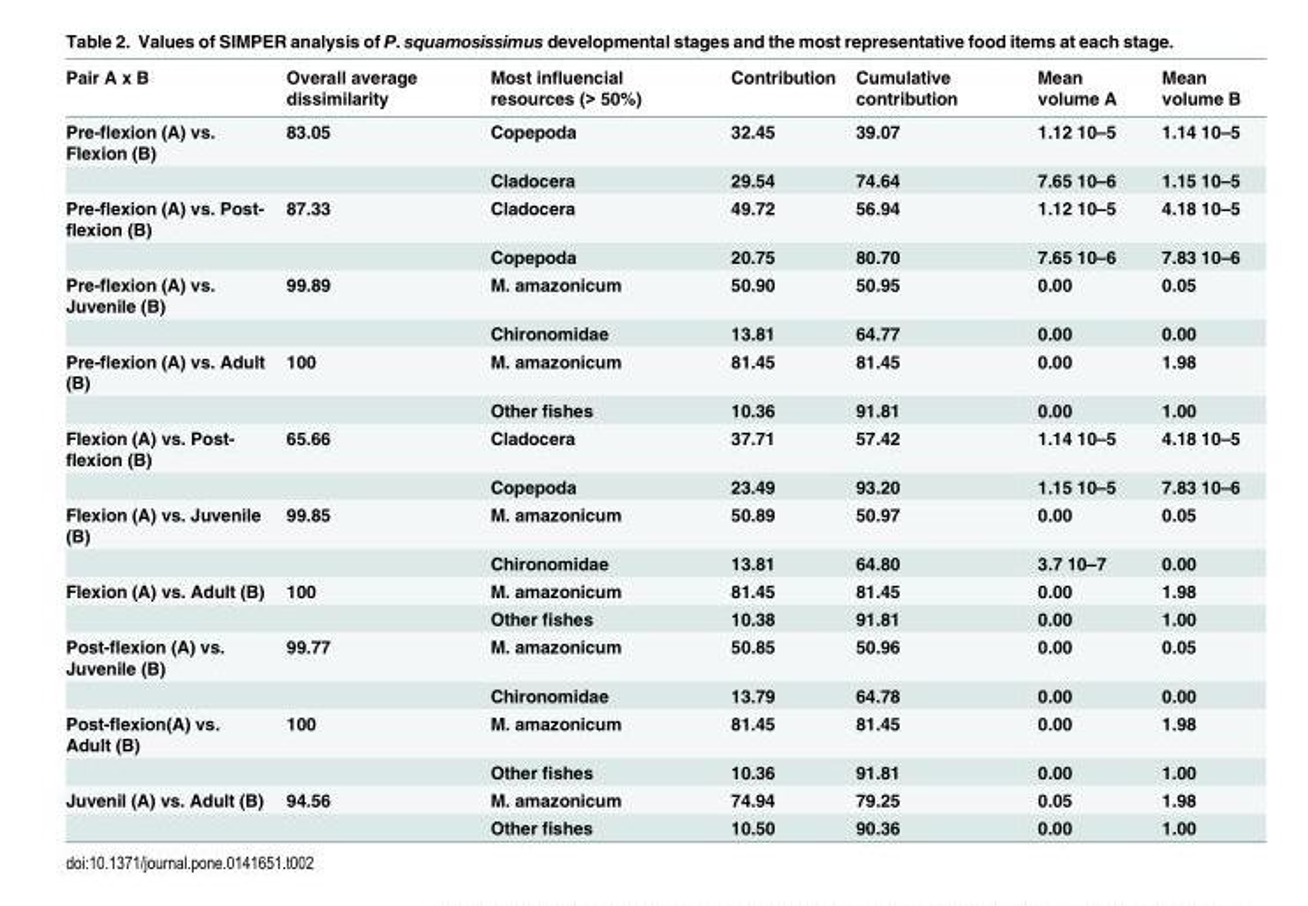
<table><thead><tr><td>Pair A x B</td><td>Overall average dissimilarity</td><td>Most influencial resources (&gt; 50%)</td><td>Contribution</td><td>Cumulative contribution</td><td>Mean volume A</td><td>Mean volume B</td></tr></thead><tbody><tr><td rowspan="2">Pre-flexion (A) vs. Flexion (B)</td><td>83.05</td><td>Copepoda</td><td>32.45</td><td>39.07</td><td>1.12 10–5</td><td>1.14 10–5</td></tr><tr><td></td><td>Cladocera</td><td>29.54</td><td>74.64</td><td>7.65 10–6</td><td>1.15 10–5</td></tr><tr><td rowspan="2">Pre-flexion (A) vs. Post- flexion (B)</td><td>87.33</td><td>Cladocera</td><td>49.72</td><td>56.94</td><td>1.12 10–5</td><td>4.18 10–5</td></tr><tr><td></td><td>Copepoda</td><td>20.75</td><td>80.70</td><td>7.65 10–6</td><td>7.83 10–6</td></tr><tr><td rowspan="2">Pre-flexion (A) vs. Juvenile (B)</td><td>99.89</td><td>M. amazonicum</td><td>50.90</td><td>50.95</td><td>0.00</td><td>0.05</td></tr><tr><td></td><td>Chironomidae</td><td>13.81</td><td>64.77</td><td>0.00</td><td>0.00</td></tr><tr><td rowspan="2">Pre-flexion (A) vs. Adult (B)</td><td>100</td><td>M. amazonicum</td><td>81.45</td><td>81.45</td><td>0.00</td><td>1.98</td></tr><tr><td></td><td>Other fishes</td><td>10.36</td><td>91.81</td><td>0.00</td><td>1.00</td></tr><tr><td rowspan="2">Flexion (A) vs. Post- flexion (B)</td><td>65.66</td><td>Cladocera</td><td>37.71</td><td>57.42</td><td>1.14 10–5</td><td>4.18 10–5</td></tr><tr><td></td><td>Copepoda</td><td>23.49</td><td>93.20</td><td>1.15 10–5</td><td>7.83 10–6</td></tr><tr><td rowspan="2">Flexion (A) vs. Juvenile (B)</td><td>99.85</td><td>M. amazonicum</td><td>50.89</td><td>50.97</td><td>0.00</td><td>0.05</td></tr><tr><td></td><td>Chironomidae</td><td>13.81</td><td>64.80</td><td>3.7 10–7</td><td>0.00</td></tr><tr><td rowspan="2">Flexion (A) vs. Adult (B)</td><td>100</td><td>M. amazonicum</td><td>81.45</td><td>81.45</td><td>0.00</td><td>1.98</td></tr><tr><td></td><td>Other fishes</td><td>10.38</td><td>91.81</td><td>0.00</td><td>1.00</td></tr><tr><td rowspan="2">Post-flexion (A) vs. Juvenile (B)</td><td>99.77</td><td>M. amazonicum</td><td>50.85</td><td>50.96</td><td>0.00</td><td>0.05</td></tr><tr><td></td><td>Chironomidae</td><td>13.79</td><td>64.78</td><td>0.00</td><td>0.00</td></tr><tr><td rowspan="2">Post-flexion(A) vs. Adult (B)</td><td>100</td><td>M. amazonicum</td><td>81.45</td><td>81.45</td><td>0.00</td><td>1.98</td></tr><tr><td></td><td>Other fishes</td><td>10.36</td><td>91.81</td><td>0.00</td><td>1.00</td></tr><tr><td rowspan="2">Juvenil (A) vs. Adult (B)</td><td>94.56</td><td>M. amazonicum</td><td>74.94</td><td>79.25</td><td>0.05</td><td>1.98</td></tr><tr><td></td><td>Other fishes</td><td>10.50</td><td>90.36</td><td>0.00</td><td>1.00</td></tr></tbody></table>